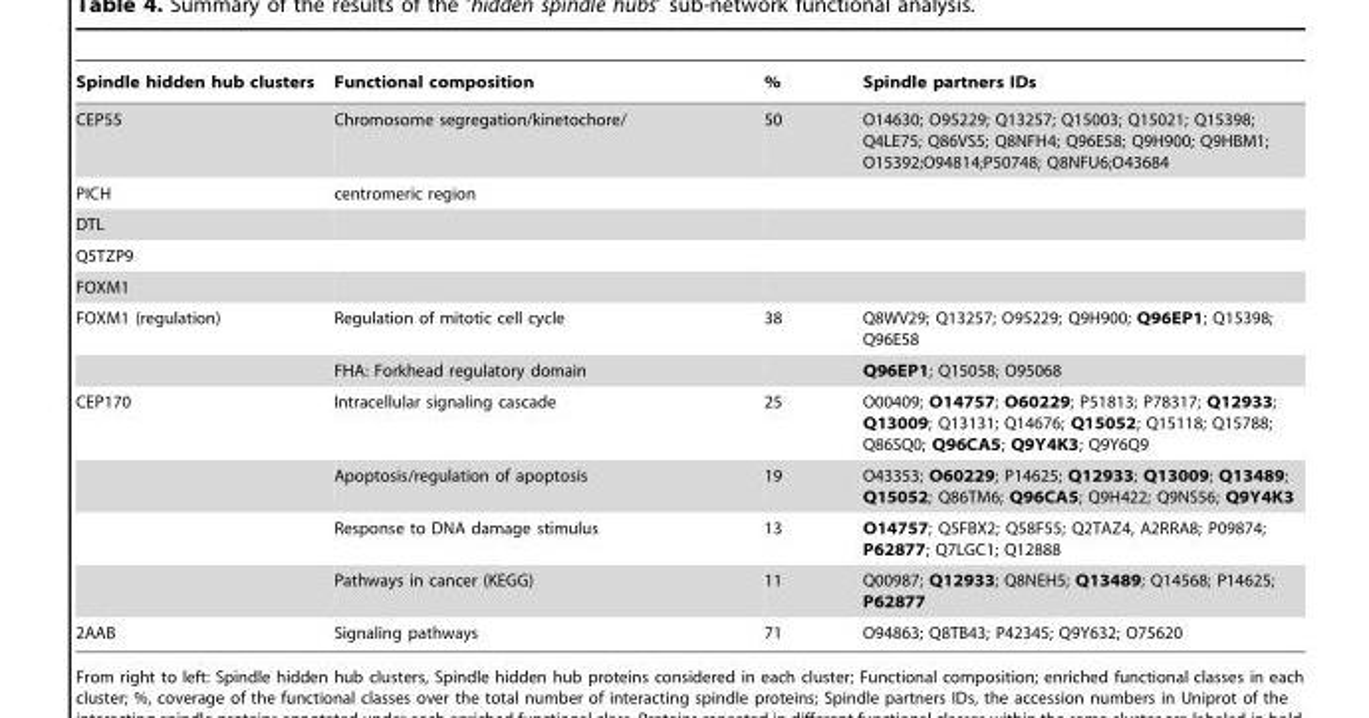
<table><thead><tr><td>Spindle hidden hub clusters</td><td>Functional composition</td><td>%</td><td>Spindle partners IDs</td></tr></thead><tbody><tr><td>CEP55</td><td>Chromosome segregation/kinetochore/</td><td>50</td><td>O14630; O95229; Q13257; Q15003; Q15021; Q15398; Q4LE75; Q86VS5; Q8NFH4; Q96E58; Q9H900; Q9HBM1; O15392;O94814;P50748; Q8NFU6;O43684</td></tr><tr><td>PICH</td><td>centromeric region</td><td></td><td></td></tr><tr><td colspan="4">DTL</td></tr><tr><td colspan="4">Q5TZP9</td></tr><tr><td colspan="4">FOXM1</td></tr><tr><td rowspan="2">FOXM1 (regulation)</td><td>Regulation of mitotic cell cycle</td><td>38</td><td>Q8WV29; Q13257; O95229; Q9H900; Q96EP1; Q15398; Q96E58</td></tr><tr><td>FHA: Forkhead regulatory domain</td><td></td><td>Q96EP1; Q15058; O95068</td></tr><tr><td rowspan="4">CEP170</td><td>Intracellular signaling cascade</td><td>25</td><td>O00409; O14757; O60229; P51813; P78317; Q12933; Q13009; Q13131; Q14676; Q15052; Q15118; Q15788; Q86SQ0; Q96CA5; Q9Y4K3; Q9Y6Q9</td></tr><tr><td>Apoptosis/regulation of apoptosis</td><td>19</td><td>O43353; O60229; P14625; Q12933; Q13009; Q13489; Q15052; Q86TM6; Q96CA5; Q9H422; Q9NS56; Q9Y4K3</td></tr><tr><td>Response to DNA damage stimulus</td><td>13</td><td>O14757; Q5FBX2; Q58F55; Q2TAZ4, A2RRA8; P09874; P62877; Q7LGC1; Q12888</td></tr><tr><td>Pathways in cancer (KEGG)</td><td>11</td><td>Q00987; Q12933; Q8NEH5; Q13489; Q14568; P14625; P62877</td></tr><tr><td>2AAB</td><td>Signaling pathways</td><td>71</td><td>O94863; Q8TB43; P42345; Q9Y632; O75620</td></tr></tbody></table>